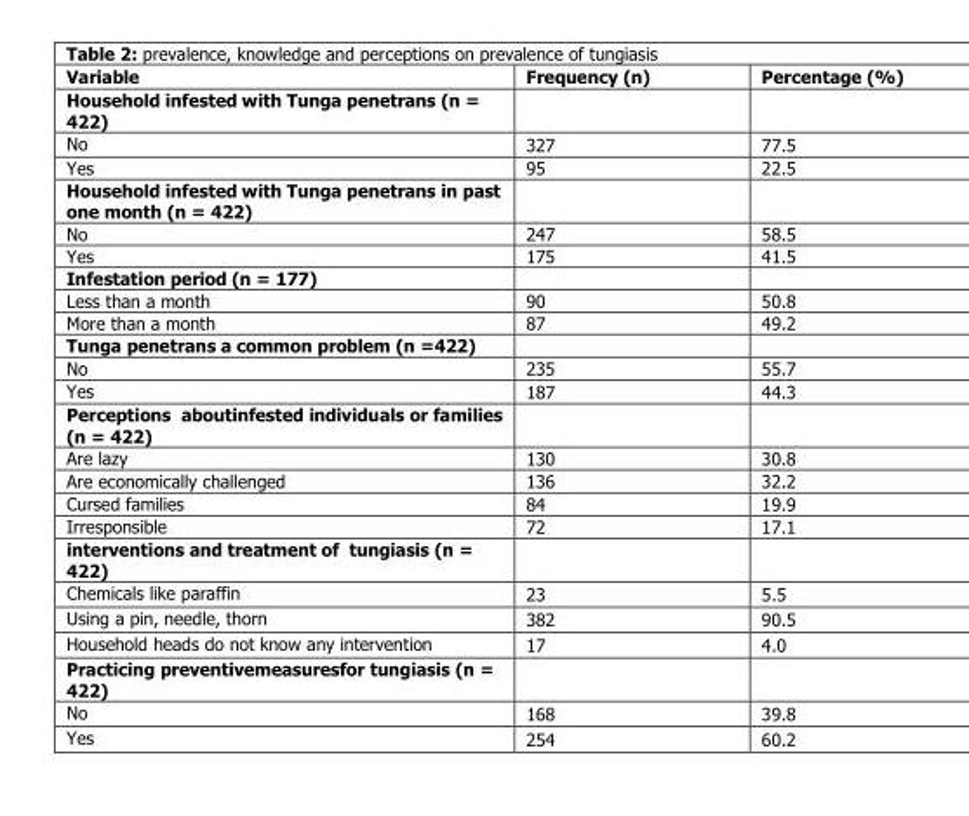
<table><thead><tr><td>Variable</td><td>Frequency (n)</td><td>Percentage (%)</td></tr></thead><tbody><tr><td colspan="3">Household infested with Tunga penetrans (n = 422)</td></tr><tr><td>No</td><td>327</td><td>77.5</td></tr><tr><td>Yes</td><td>95</td><td>22.5</td></tr><tr><td colspan="3">Household infested with Tunga penetrans in past one month (n = 422)</td></tr><tr><td>No</td><td>247</td><td>58.5</td></tr><tr><td>Yes</td><td>175</td><td>41.5</td></tr><tr><td colspan="3">Infestation period (n = 177)</td></tr><tr><td>Less than a month</td><td>90</td><td>50.8</td></tr><tr><td>More than a month</td><td>87</td><td>49.2</td></tr><tr><td colspan="3">Tunga penetrans a common problem (n =422)</td></tr><tr><td>No</td><td>235</td><td>55.7</td></tr><tr><td>Yes</td><td>187</td><td>44.3</td></tr><tr><td colspan="3">Perceptions aboutinfested individuals or families (n = 422)</td></tr><tr><td>Are lazy</td><td>130</td><td>30.8</td></tr><tr><td>Are economically challenged</td><td>136</td><td>32.2</td></tr><tr><td>Cursed families</td><td>84</td><td>19.9</td></tr><tr><td>Irresponsible</td><td>72</td><td>17.1</td></tr><tr><td colspan="3">interventions and treatment of tungiasis (n = 422)</td></tr><tr><td>Chemicals like paraffin</td><td>23</td><td>5.5</td></tr><tr><td>Using a pin, needle, thorn</td><td>382</td><td>90.5</td></tr><tr><td>Household heads do not know any intervention</td><td>17</td><td>4.0</td></tr><tr><td colspan="3">Practicing preventivemeasuresfor tungiasis (n = 422)</td></tr><tr><td>No</td><td>168</td><td>39.8</td></tr><tr><td>Yes</td><td>254</td><td>60.2</td></tr></tbody></table>